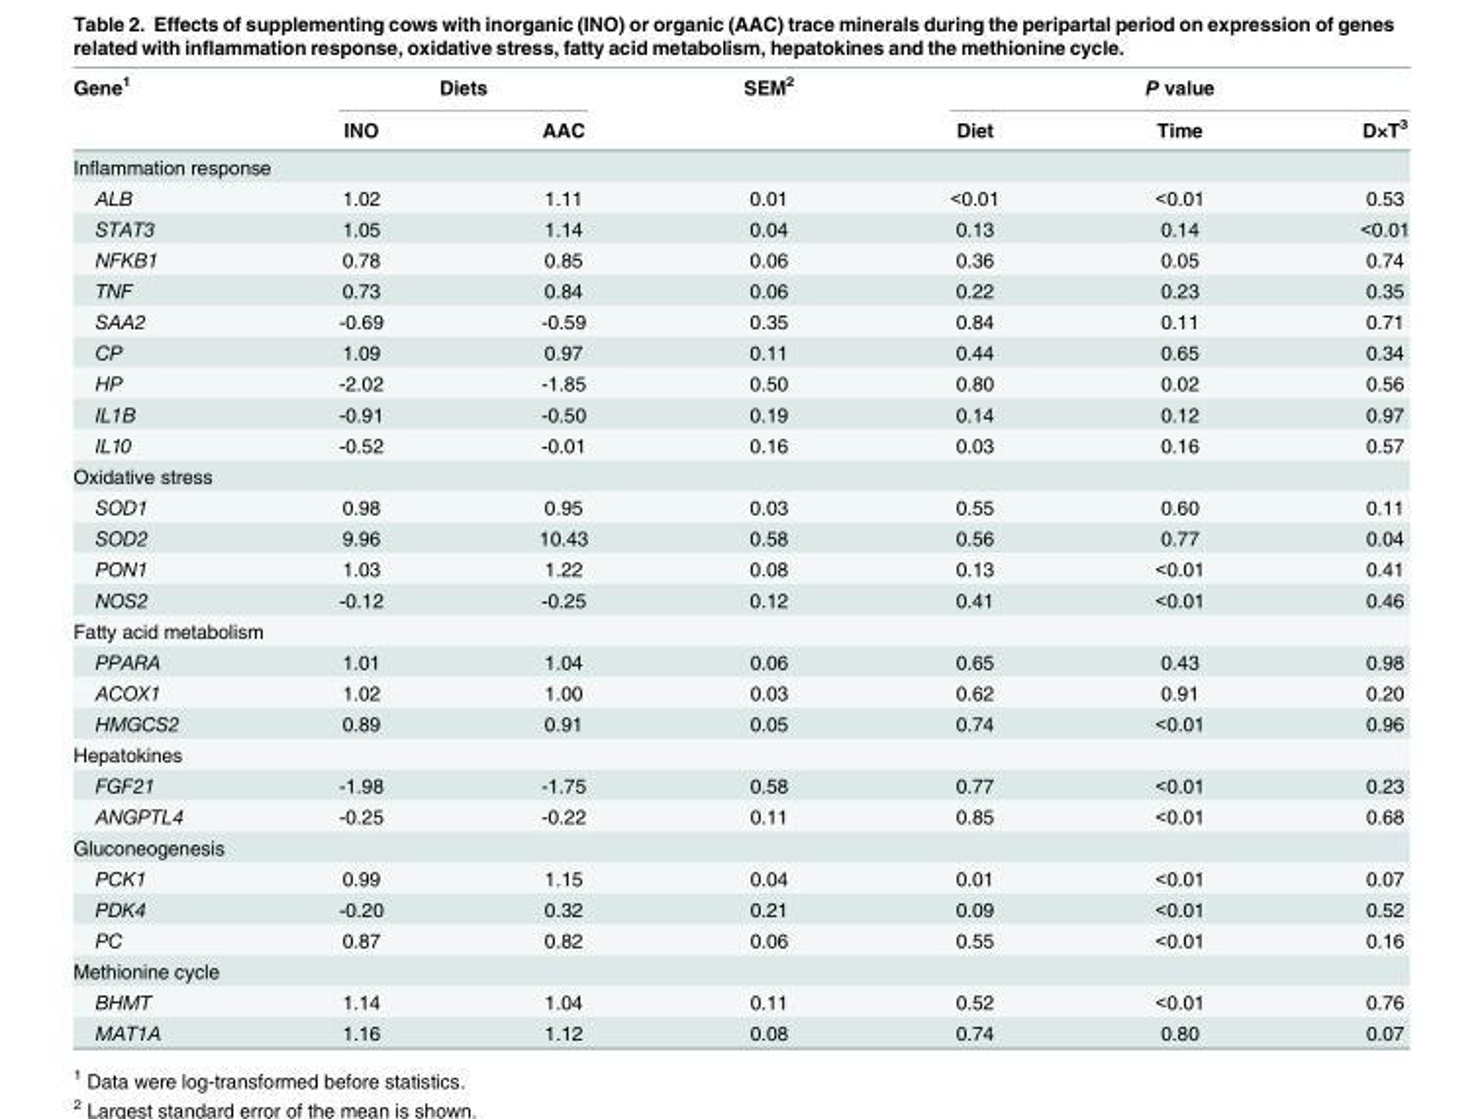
<table><thead><tr><td rowspan="2">Gene<sup>1</sup></td><td colspan="2">Diets</td><td rowspan="2">SEM<sup>2</sup></td><td colspan="3">P value</td></tr><tr><td>INO</td><td>AAC</td><td>Diet</td><td>Time</td><td>D×T<sup>3</sup></td></tr></thead><tbody><tr><td colspan="7">Inflammation response</td></tr><tr><td>ALB</td><td>1.02</td><td>1.11</td><td>0.01</td><td>&lt;0.01</td><td>&lt;0.01</td><td>0.53</td></tr><tr><td>STAT3</td><td>1.05</td><td>1.14</td><td>0.04</td><td>0.13</td><td>0.14</td><td>&lt;0.01</td></tr><tr><td>NFKB1</td><td>0.78</td><td>0.85</td><td>0.06</td><td>0.36</td><td>0.05</td><td>0.74</td></tr><tr><td>TNF</td><td>0.73</td><td>0.84</td><td>0.06</td><td>0.22</td><td>0.23</td><td>0.35</td></tr><tr><td>SAA2</td><td>-0.69</td><td>-0.59</td><td>0.35</td><td>0.84</td><td>0.11</td><td>0.71</td></tr><tr><td>CP</td><td>1.09</td><td>0.97</td><td>0.11</td><td>0.44</td><td>0.65</td><td>0.34</td></tr><tr><td>HP</td><td>-2.02</td><td>-1.85</td><td>0.50</td><td>0.80</td><td>0.02</td><td>0.56</td></tr><tr><td>IL1B</td><td>-0.91</td><td>-0.50</td><td>0.19</td><td>0.14</td><td>0.12</td><td>0.97</td></tr><tr><td>IL10</td><td>-0.52</td><td>-0.01</td><td>0.16</td><td>0.03</td><td>0.16</td><td>0.57</td></tr><tr><td colspan="7">Oxidative stress</td></tr><tr><td>SOD1</td><td>0.98</td><td>0.95</td><td>0.03</td><td>0.55</td><td>0.60</td><td>0.11</td></tr><tr><td>SOD2</td><td>9.96</td><td>10.43</td><td>0.58</td><td>0.56</td><td>0.77</td><td>0.04</td></tr><tr><td>PON1</td><td>1.03</td><td>1.22</td><td>0.08</td><td>0.13</td><td>&lt;0.01</td><td>0.41</td></tr><tr><td>NOS2</td><td>-0.12</td><td>-0.25</td><td>0.12</td><td>0.41</td><td>&lt;0.01</td><td>0.46</td></tr><tr><td colspan="7">Fatty acid metabolism</td></tr><tr><td>PPARA</td><td>1.01</td><td>1.04</td><td>0.06</td><td>0.65</td><td>0.43</td><td>0.98</td></tr><tr><td>ACOX1</td><td>1.02</td><td>1.00</td><td>0.03</td><td>0.62</td><td>0.91</td><td>0.20</td></tr><tr><td>HMGCS2</td><td>0.89</td><td>0.91</td><td>0.05</td><td>0.74</td><td>&lt;0.01</td><td>0.96</td></tr><tr><td colspan="7">Hepatokines</td></tr><tr><td>FGF21</td><td>-1.98</td><td>-1.75</td><td>0.58</td><td>0.77</td><td>&lt;0.01</td><td>0.23</td></tr><tr><td>ANGPTL4</td><td>-0.25</td><td>-0.22</td><td>0.11</td><td>0.85</td><td>&lt;0.01</td><td>0.68</td></tr><tr><td colspan="7">Gluconeogenesis</td></tr><tr><td>PCK1</td><td>0.99</td><td>1.15</td><td>0.04</td><td>0.01</td><td>&lt;0.01</td><td>0.07</td></tr><tr><td>PDK4</td><td>-0.20</td><td>0.32</td><td>0.21</td><td>0.09</td><td>&lt;0.01</td><td>0.52</td></tr><tr><td>PC</td><td>0.87</td><td>0.82</td><td>0.06</td><td>0.55</td><td>&lt;0.01</td><td>0.16</td></tr><tr><td colspan="7">Methionine cycle</td></tr><tr><td>BHMT</td><td>1.14</td><td>1.04</td><td>0.11</td><td>0.52</td><td>&lt;0.01</td><td>0.76</td></tr><tr><td>MAT1A</td><td>1.16</td><td>1.12</td><td>0.08</td><td>0.74</td><td>0.80</td><td>0.07</td></tr></tbody></table>